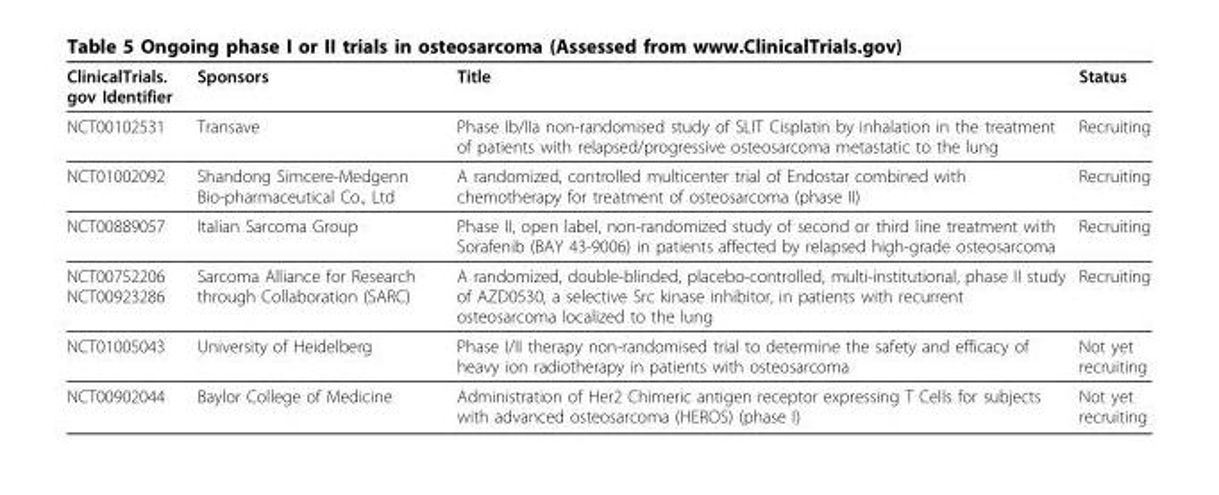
<table><thead><tr><td>ClinicalTrials. gov Identifier</td><td>Sponsors</td><td>Title</td><td>Status</td></tr></thead><tbody><tr><td>NCT00102531</td><td>Transave</td><td>Phase Ib/IIa non-randomised study of SLIT Cisplatin by inhalation in the treatment of patients with relapsed/progressive osteosarcoma metastatic to the lung</td><td>Recruiting</td></tr><tr><td>NCT01002092</td><td>Shandong Simcere-Medgenn Bio-pharmaceutical Co., Ltd</td><td>A randomized, controlled multicenter trial of Endostar combined with chemotherapy for treatment of osteosarcoma (phase II)</td><td>Recruiting</td></tr><tr><td>NCT00889057</td><td>Italian Sarcoma Group</td><td>Phase II, open label, non-randomized study of second or third line treatment with Sorafenib (BAY 43-9006) in patients affected by relapsed high-grade osteosarcoma</td><td>Recruiting</td></tr><tr><td>NCT00752206 NCT00923286</td><td>Sarcoma Alliance for Research through Collaboration (SARC)</td><td>A randomized, double-blinded, placebo-controlled, multi-institutional, phase II study of AZD0530, a selective Src kinase inhibitor, in patients with recurrent osteosarcoma localized to the lung</td><td>Recruiting</td></tr><tr><td>NCT01005043</td><td>University of Heidelberg</td><td>Phase I/II therapy non-randomised trial to determine the safety and efficacy of heavy ion radiotherapy in patients with osteosarcoma</td><td>Not yet recruiting</td></tr><tr><td>NCT00902044</td><td>Baylor College of Medicine</td><td>Administration of Her2 Chimeric antigen receptor expressing T Cells for subjects with advanced osteosarcoma (HEROS) (phase I)</td><td>Not yet recruiting</td></tr></tbody></table>